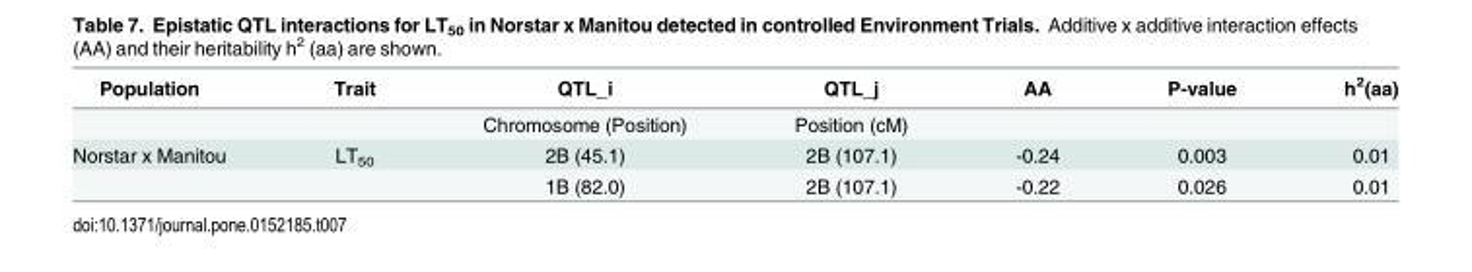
<table><thead><tr><td>Population</td><td>Trait</td><td>QTL_i</td><td>QTL_j</td><td>AA</td><td>P-value</td><td>h<sup>2</sup>(aa)</td></tr></thead><tbody><tr><td></td><td></td><td>Chromosome (Position)</td><td>Position (cM)</td><td></td><td></td><td></td></tr><tr><td rowspan="2">Norstar x Manitou</td><td>LT<sub>50</sub></td><td>2B (45.1)</td><td>2B (107.1)</td><td>-0.24</td><td>0.003</td><td>0.01</td></tr><tr><td></td><td>1B (82.0)</td><td>2B (107.1)</td><td>-0.22</td><td>0.026</td><td>0.01</td></tr></tbody></table>